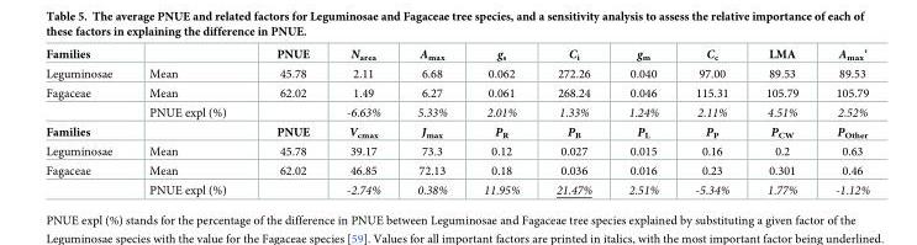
<table><tbody><tr><td>Families</td><td></td><td>PNUE</td><td>N<sub>area</sub></td><td>A<sub>max</sub></td><td>g<sub>s</sub></td><td>C<sub>i</sub></td><td>g<sub>m</sub></td><td>C<sub>c</sub></td><td>LMA</td><td>A<sub>max</sub>‘</td></tr><tr><td>Leguminosae</td><td>Mean</td><td>45.78</td><td>2.11</td><td>6.68</td><td>0.062</td><td>272.26</td><td>0.040</td><td>97.00</td><td>89.53</td><td>89.53</td></tr><tr><td rowspan="2">Fagaceae</td><td>Mean</td><td>62.02</td><td>1.49</td><td>6.27</td><td>0.061</td><td>268.24</td><td>0.046</td><td>115.31</td><td>105.79</td><td>105.79</td></tr><tr><td>PNUE expl (%)</td><td></td><td>-6.63%</td><td>5.33%</td><td>2.01%</td><td>1.33%</td><td>1.24%</td><td>2.11%</td><td>4.51%</td><td>2.52%</td></tr><tr><td>Families</td><td></td><td>PNUE</td><td>V<sub>cmax</sub></td><td>J<sub>max</sub></td><td>P<sub>R</sub></td><td>P<sub>B</sub></td><td>P<sub>L</sub></td><td>P<sub>P</sub></td><td>P<sub>CW</sub></td><td>P<sub>Other</sub></td></tr><tr><td>Leguminosae</td><td>Mean</td><td>45.78</td><td>39.17</td><td>73.3</td><td>0.12</td><td>0.027</td><td>0.015</td><td>0.16</td><td>0.2</td><td>0.63</td></tr><tr><td rowspan="2">Fagaceae</td><td>Mean</td><td>62.02</td><td>46.85</td><td>72.13</td><td>0.18</td><td>0.036</td><td>0.016</td><td>0.23</td><td>0.301</td><td>0.46</td></tr><tr><td>PNUE expl (%)</td><td></td><td>-2.74%</td><td>0.38%</td><td>11.95%</td><td>21.47%</td><td>2.51%</td><td>-5.34%</td><td>1.77%</td><td>-1.12%</td></tr></tbody></table>